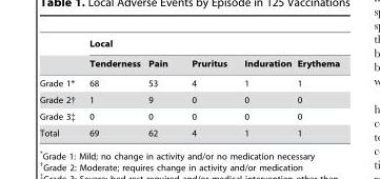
<table><thead><tr><td rowspan="2"></td><td colspan="5">Local</td></tr><tr><td>Tenderness</td><td>Pain</td><td>Pruritus</td><td>Induration</td><td>Erythema</td></tr></thead><tbody><tr><td>Grade 1*</td><td>68</td><td>53</td><td>4</td><td>1</td><td>1</td></tr><tr><td>Grade 2†</td><td>1</td><td>9</td><td>0</td><td>0</td><td>0</td></tr><tr><td>Grade 3‡</td><td>0</td><td>0</td><td>0</td><td>0</td><td>0</td></tr><tr><td>Total</td><td>69</td><td>62</td><td>4</td><td>1</td><td>1</td></tr></tbody></table>